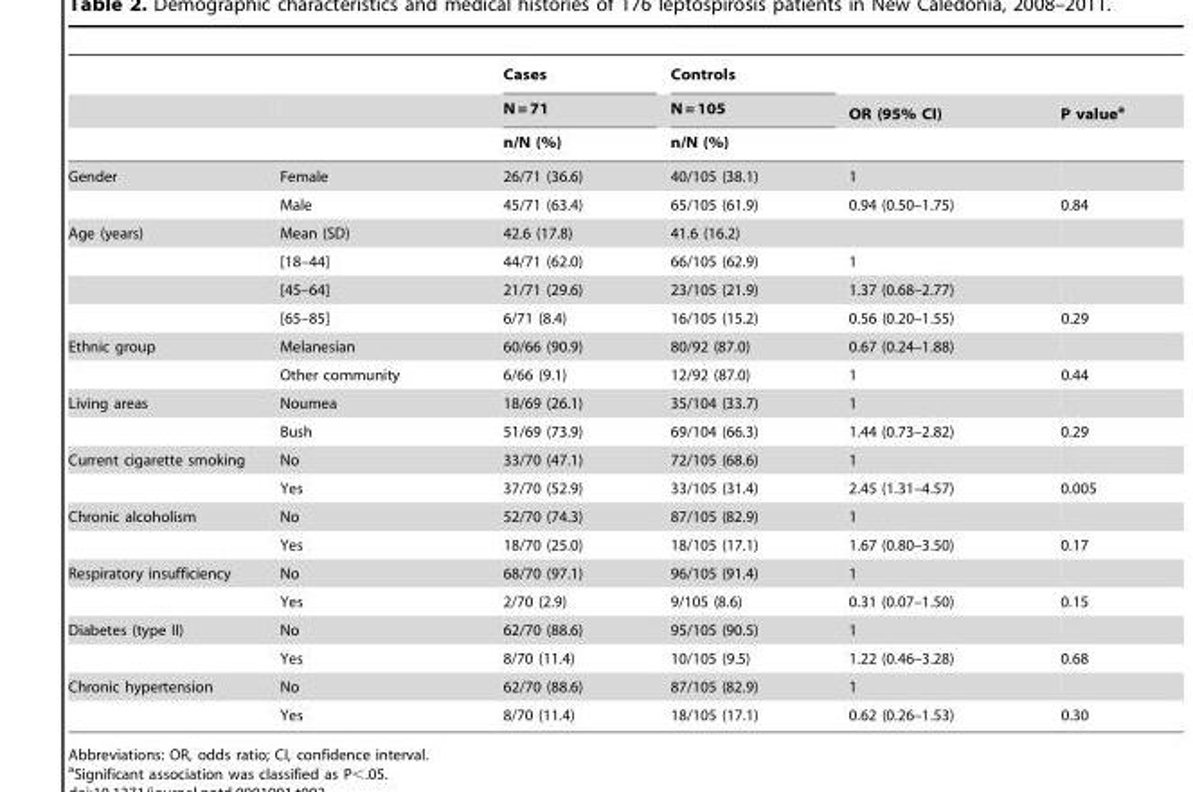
<table><thead><tr><td rowspan="3"></td><td rowspan="3"></td><td rowspan="3">Cases N = 71 n/N (%)</td><td rowspan="3">Controls N = 105 n/N (%)</td><td rowspan="3">OR (95% CI)</td><td rowspan="3">P value<sup>a</sup></td></tr><tr></tr><tr></tr></thead><tbody><tr><td rowspan="2">Gender</td><td>Female</td><td>26/71 (36.6)</td><td>40/105 (38.1)</td><td>1</td><td></td></tr><tr><td>Male</td><td>45/71 (63.4)</td><td>65/105 (61.9)</td><td>0.94 (0.50–1.75)</td><td>0.84</td></tr><tr><td rowspan="4">Age (years)</td><td>Mean (SD)</td><td>42.6 (17.8)</td><td>41.6 (16.2)</td><td></td><td></td></tr><tr><td>[18–44]</td><td>44/71 (62.0)</td><td>66/105 (62.9)</td><td>1</td><td></td></tr><tr><td>[45–64]</td><td>21/71 (29.6)</td><td>23/105 (21.9)</td><td>1.37 (0.68–2.77)</td><td></td></tr><tr><td>[65–85]</td><td>6/71 (8.4)</td><td>16/105 (15.2)</td><td>0.56 (0.20–1.55)</td><td>0.29</td></tr><tr><td rowspan="2">Ethnic group</td><td>Melanesian</td><td>60/66 (90.9)</td><td>80/92 (87.0)</td><td>0.67 (0.24–1.88)</td><td></td></tr><tr><td>Other community</td><td>6/66 (9.1)</td><td>12/92 (87.0)</td><td>1</td><td>0.44</td></tr><tr><td rowspan="2">Living areas</td><td>Noumea</td><td>18/69 (26.1)</td><td>35/104 (33.7)</td><td>1</td><td></td></tr><tr><td>Bush</td><td>51/69 (73.9)</td><td>69/104 (66.3)</td><td>1.44 (0.73–2.82)</td><td>0.29</td></tr><tr><td rowspan="2">Current cigarette smoking</td><td>No</td><td>33/70 (47.1)</td><td>72/105 (68.6)</td><td>1</td><td></td></tr><tr><td>Yes</td><td>37/70 (52.9)</td><td>33/105 (31.4)</td><td>2.45 (1.31–4.57)</td><td>0.005</td></tr><tr><td rowspan="2">Chronic alcoholism</td><td>No</td><td>52/70 (74.3)</td><td>87/105 (82.9)</td><td>1</td><td></td></tr><tr><td>Yes</td><td>18/70 (25.0)</td><td>18/105 (17.1)</td><td>1.67 (0.80–3.50)</td><td>0.17</td></tr><tr><td rowspan="2">Respiratory insufficiency</td><td>No</td><td>68/70 (97.1)</td><td>96/105 (91.4)</td><td>1</td><td></td></tr><tr><td>Yes</td><td>2/70 (2.9)</td><td>9/105 (8.6)</td><td>0.31 (0.07–1.50)</td><td>0.15</td></tr><tr><td rowspan="2">Diabetes (type II)</td><td>No</td><td>62/70 (88.6)</td><td>95/105 (90.5)</td><td>1</td><td></td></tr><tr><td>Yes</td><td>8/70 (11.4)</td><td>10/105 (9.5)</td><td>1.22 (0.46–3.28)</td><td>0.68</td></tr><tr><td rowspan="2">Chronic hypertension</td><td>No</td><td>62/70 (88.6)</td><td>87/105 (82.9)</td><td>1</td><td></td></tr><tr><td>Yes</td><td>8/70 (11.4)</td><td>18/105 (17.1)</td><td>0.62 (0.26–1.53)</td><td>0.30</td></tr></tbody></table>